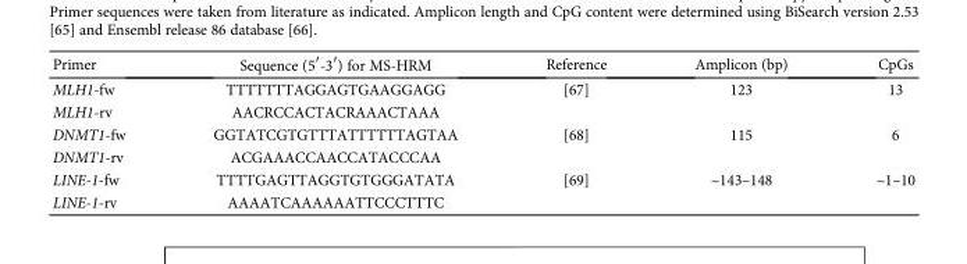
<table><thead><tr><td>Primer</td><td>Sequence (5′-3′) for MS-HRM</td><td>Reference</td><td>Amplicon (bp)</td><td>CpGs</td></tr></thead><tbody><tr><td>MLH1-fw</td><td>TTTTTTTAGGAGTGAAGGAGG</td><td>[67]</td><td>123</td><td>13</td></tr><tr><td>MLH1-rv</td><td>AACRCCACTACRAAACTAAA</td><td></td><td></td><td></td></tr><tr><td>DNMT1-fw</td><td>GGTATCGTGTTTATTTTTTAGTAA</td><td>[68]</td><td>115</td><td>6</td></tr><tr><td>DNMT1-rv</td><td>ACGAAACCAACCATACCCAA</td><td></td><td></td><td></td></tr><tr><td>LINE-1-fw</td><td>TTTTGAGTTAGGTGTGGGATATA</td><td>[69]</td><td>~143–148</td><td>~1–10</td></tr><tr><td>LINE-1-rv</td><td>AAAATCAAAAAATTCCCTTTC</td><td></td><td></td><td></td></tr></tbody></table>